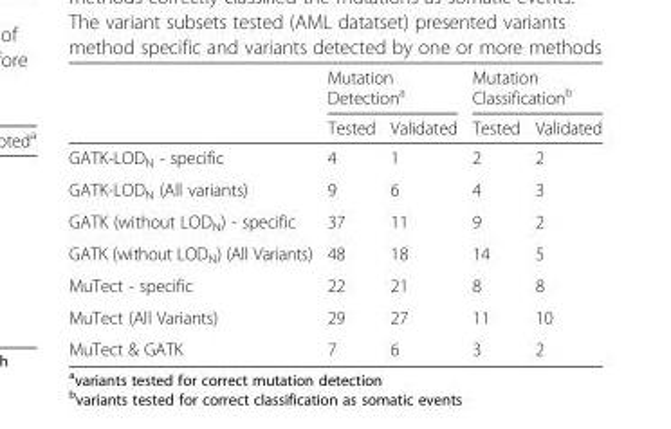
<table><thead><tr><td rowspan="2"></td><td colspan="2">Mutation Detection<sup>a</sup></td><td colspan="2">Mutation Classification<sup>b</sup></td></tr><tr><td>Tested</td><td>Validated</td><td>Tested</td><td>Validated</td></tr></thead><tbody><tr><td>GATK-LOD<sub>N</sub> - specific</td><td>4</td><td>1</td><td>2</td><td>2</td></tr><tr><td>GATK-LOD<sub>N</sub> (All variants)</td><td>9</td><td>6</td><td>4</td><td>3</td></tr><tr><td>GATK (without LOD<sub>N</sub>) - specific</td><td>37</td><td>11</td><td>9</td><td>2</td></tr><tr><td>GATK (without LOD<sub>N</sub>) (All Variants)</td><td>48</td><td>18</td><td>14</td><td>5</td></tr><tr><td>MuTect - specific</td><td>22</td><td>21</td><td>8</td><td>8</td></tr><tr><td>MuTect (All Variants)</td><td>29</td><td>27</td><td>11</td><td>10</td></tr><tr><td>MuTect &amp; GATK</td><td>7</td><td>6</td><td>3</td><td>2</td></tr></tbody></table>